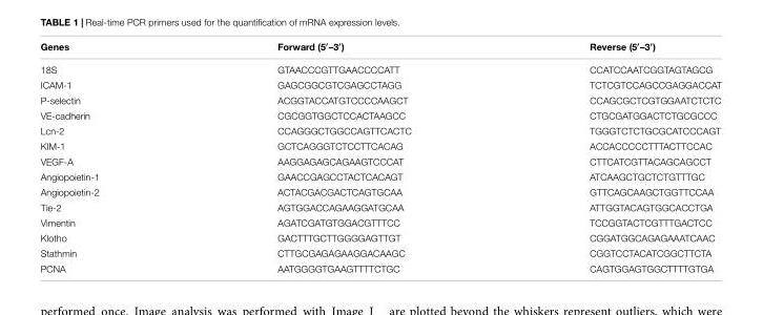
<table><thead><tr><td>Genes</td><td>Forward (5′–3′)</td><td>Reverse (5′–3′)</td></tr></thead><tbody><tr><td>18S</td><td>GTAACCCGTTGAACCCCATT</td><td>CCATCCAATCGGTAGTAGCG</td></tr><tr><td>ICAM-1</td><td>GAGCGGCGTCGAGCCTAGG</td><td>TCTCGTCCAGCCGAGGACCAT</td></tr><tr><td>P-selectin</td><td>ACGGTACCATGTCCCCAAGCT</td><td>CCAGCGCTCGTGGAATCTCTC</td></tr><tr><td>VE-cadherin</td><td>CGCGGTGGCTCCACTAAGCC</td><td>CTGCGATGGACTCTGCGCCC</td></tr><tr><td>Lcn-2</td><td>CCAGGGCTGGCCAGTTCACTC</td><td>TGGGTCTCTGCGCATCCCAGT</td></tr><tr><td>KIM-1</td><td>GCTCAGGGTCTCCTTCACAG</td><td>ACCACCCCCTTTACTTCCAC</td></tr><tr><td>VEGF-A</td><td>AAGGAGAGCAGAAGTCCCAT</td><td>CTTCATCGTTACAGCAGCCT</td></tr><tr><td>Angiopoietin-1</td><td>GAACCGAGCCTACTCACAGT</td><td>ATCAAGCTGCTCTGTTTGC</td></tr><tr><td>Angiopoietin-2</td><td>ACTACGACGACTCAGTGCAA</td><td>GTTCAGCAAGCTGGTTCCAA</td></tr><tr><td>Tie-2</td><td>AGTGGACCAGAAGGATGCAA</td><td>ATTGGTACAGTGGCACCTGA</td></tr><tr><td>Vimentin</td><td>AGATCGATGTGGACGTTTCC</td><td>TCCGGTACTCGTTTGACTCC</td></tr><tr><td>Klotho</td><td>GACTTTGCTTGGGGAGTTGT</td><td>CGGATGGCAGAGAAATCAAC</td></tr><tr><td>Stathmin</td><td>CTTGCGAGAGAAGGACAAGC</td><td>CGGTCCTACATCGGCTTCTA</td></tr><tr><td>PCNA</td><td>AATGGGGTGAAGTTTTCTGC</td><td>CAGTGGAGTGGCTTTTGTGA</td></tr></tbody></table>